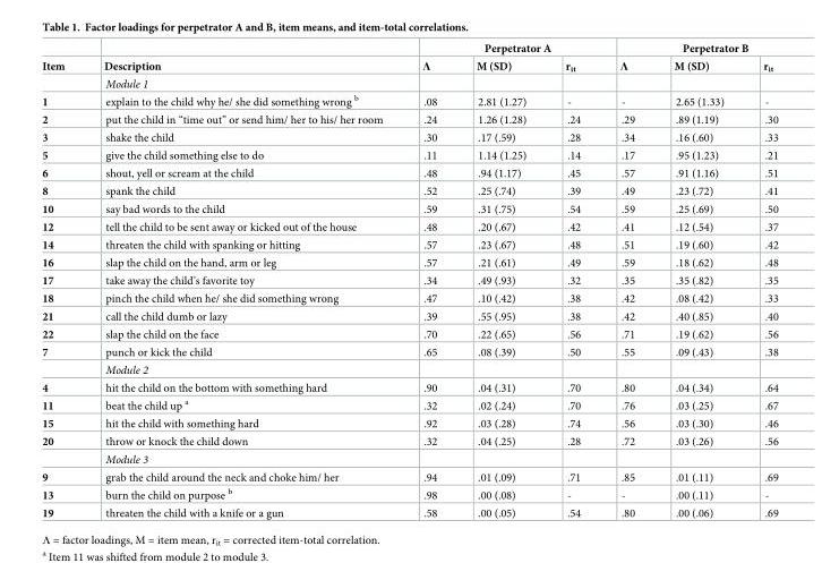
<table><thead><tr><td rowspan="2">Item</td><td rowspan="2">Description</td><td colspan="3">Perpetrator A</td><td colspan="3">Perpetrator B</td></tr><tr><td>Λ</td><td>M (SD)</td><td>r<sub>it</sub></td><td>Λ</td><td>M (SD)</td><td>r<sub>it</sub></td></tr></thead><tbody><tr><td></td><td>Module 1</td><td></td><td></td><td></td><td></td><td></td><td></td></tr><tr><td>1</td><td>explain to the child why he/ she did something wrong <sup>b</sup></td><td>.08</td><td>2.81 (1.27)</td><td>-</td><td>-</td><td>2.65 (1.33)</td><td>-</td></tr><tr><td>2</td><td>put the child in “time out” or send him/ her to his/ her room</td><td>.24</td><td>1.26 (1.28)</td><td>.24</td><td>.29</td><td>.89 (1.19)</td><td>.30</td></tr><tr><td>3</td><td>shake the child</td><td>.30</td><td>.17 (.59)</td><td>.28</td><td>.34</td><td>.16 (.60)</td><td>.33</td></tr><tr><td>5</td><td>give the child something else to do</td><td>.11</td><td>1.14 (1.25)</td><td>.14</td><td>.17</td><td>.95 (1.23)</td><td>.21</td></tr><tr><td>6</td><td>shout, yell or scream at the child</td><td>.48</td><td>.94 (1.17)</td><td>.45</td><td>.57</td><td>.91 (1.16)</td><td>.51</td></tr><tr><td>8</td><td>spank the child</td><td>.52</td><td>.25 (.74)</td><td>.39</td><td>.49</td><td>.23 (.72)</td><td>.41</td></tr><tr><td>10</td><td>say bad words to the child</td><td>.59</td><td>.31 (.75)</td><td>.54</td><td>.59</td><td>.25 (.69)</td><td>.50</td></tr><tr><td>12</td><td>tell the child to be sent away or kicked out of the house</td><td>.48</td><td>.20 (.67)</td><td>.42</td><td>.41</td><td>.12 (.54)</td><td>.37</td></tr><tr><td>14</td><td>threaten the child with spanking or hitting</td><td>.57</td><td>.23 (.67)</td><td>.48</td><td>.51</td><td>.19 (.60)</td><td>.42</td></tr><tr><td>16</td><td>slap the child on the hand, arm or leg</td><td>.57</td><td>.21 (.61)</td><td>.49</td><td>.59</td><td>.18 (.62)</td><td>.48</td></tr><tr><td>17</td><td>take away the child’s favorite toy</td><td>.34</td><td>.49 (.93)</td><td>.32</td><td>.35</td><td>.35 (.82)</td><td>.35</td></tr><tr><td>18</td><td>pinch the child when he/ she did something wrong</td><td>.47</td><td>.10 (.42)</td><td>.38</td><td>.42</td><td>.08 (.42)</td><td>.33</td></tr><tr><td>21</td><td>call the child dumb or lazy</td><td>.39</td><td>.55 (.95)</td><td>.38</td><td>.42</td><td>.40 (.85)</td><td>.40</td></tr><tr><td>22</td><td>slap the child on the face</td><td>.70</td><td>.22 (.65)</td><td>.56</td><td>.71</td><td>.19 (.62)</td><td>.56</td></tr><tr><td rowspan="2">7</td><td>punch or kick the child</td><td>.65</td><td>.08 (.39)</td><td>.50</td><td>.55</td><td>.09 (.43)</td><td>.38</td></tr><tr><td>Module 2</td><td></td><td></td><td></td><td></td><td></td><td></td></tr><tr><td>4</td><td>hit the child on the bottom with something hard</td><td>.90</td><td>.04 (.31)</td><td>.70</td><td>.80</td><td>.04 (.34)</td><td>.64</td></tr><tr><td>11</td><td>beat the child up <sup>a</sup></td><td>.32</td><td>.02 (.24)</td><td>.70</td><td>.76</td><td>.03 (.25)</td><td>.67</td></tr><tr><td>15</td><td>hit the child with something hard</td><td>.92</td><td>.03 (.28)</td><td>.74</td><td>.56</td><td>.03 (.30)</td><td>.46</td></tr><tr><td rowspan="2">20</td><td>throw or knock the child down</td><td>.32</td><td>.04 (.25)</td><td>.28</td><td>.72</td><td>.03 (.26)</td><td>.56</td></tr><tr><td>Module 3</td><td></td><td></td><td></td><td></td><td></td><td></td></tr><tr><td>9</td><td>grab the child around the neck and choke him/ her</td><td>.94</td><td>.01 (.09)</td><td>.71</td><td>.85</td><td>.01 (.11)</td><td>.69</td></tr><tr><td>13</td><td>burn the child on purpose <sup>b</sup></td><td>.98</td><td>.00 (.08)</td><td>-</td><td>-</td><td>.00 (.11)</td><td>-</td></tr><tr><td>19</td><td>threaten the child with a knife or a gun</td><td>.58</td><td>.00 (.05)</td><td>.54</td><td>.80</td><td>.00 (.06)</td><td>.69</td></tr></tbody></table>